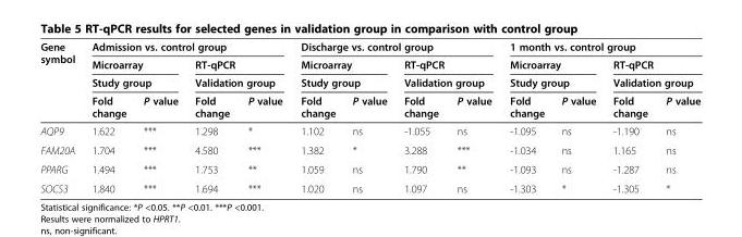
<table><thead><tr><td rowspan="4">Gene symbol</td><td colspan="4">Admission vs. control group</td><td colspan="4">Discharge vs. control group</td><td colspan="4">1 month vs. control group</td></tr><tr><td rowspan="2" colspan="2">Microarray Study group</td><td rowspan="2" colspan="2">RT-qPCR Validation group</td><td rowspan="2" colspan="2">Microarray Study group</td><td rowspan="2" colspan="2">RT-qPCR Validation group</td><td rowspan="2" colspan="2">Microarray Study group</td><td rowspan="2" colspan="2">RT-qPCR Validation group</td></tr><tr></tr><tr><td>Fold change</td><td>P value</td><td>Fold change</td><td>P value</td><td>Fold change</td><td>P value</td><td>Fold change</td><td>P value</td><td>Fold change</td><td>P value</td><td>Fold change</td><td>P value</td></tr></thead><tbody><tr><td>AQP9</td><td>1.622</td><td>***</td><td>1.298</td><td>*</td><td>1.102</td><td>ns</td><td>-1.055</td><td>ns</td><td>-1.095</td><td>ns</td><td>-1.190</td><td>ns</td></tr><tr><td>FAM20A</td><td>1.704</td><td>***</td><td>4.580</td><td>***</td><td>1.382</td><td>*</td><td>3.288</td><td>***</td><td>-1.034</td><td>ns</td><td>1.165</td><td>ns</td></tr><tr><td>PPARG</td><td>1.494</td><td>***</td><td>1.753</td><td>**</td><td>1.059</td><td>ns</td><td>1.790</td><td>**</td><td>-1.093</td><td>ns</td><td>-1.287</td><td>ns</td></tr><tr><td>SOCS3</td><td>1.840</td><td>***</td><td>1.694</td><td>***</td><td>1.020</td><td>ns</td><td>1.097</td><td>ns</td><td>-1.303</td><td>*</td><td>-1.305</td><td>*</td></tr></tbody></table>